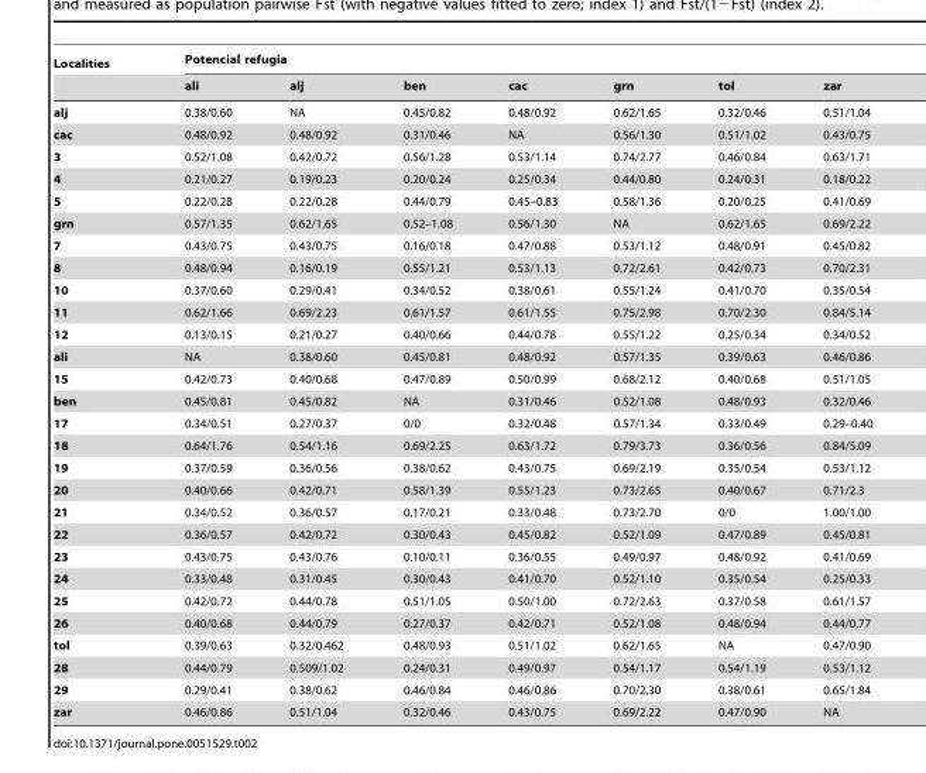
<table><thead><tr><td rowspan="2">Localities</td><td colspan="7">Potencial refugia</td></tr><tr><td>ali</td><td>alj</td><td>ben</td><td>cac</td><td>grn</td><td>tol</td><td>zar</td></tr></thead><tbody><tr><td>alj</td><td>0.38/0.60</td><td>NA</td><td>0.45/0.82</td><td>0.48/0.92</td><td>0.62/1.65</td><td>0.32/0.46</td><td>0.51/1.04</td></tr><tr><td>cac</td><td>0.48/0.92</td><td>0.48/0.92</td><td>0.31/0.46</td><td>NA</td><td>0.56/1.30</td><td>0.51/1.02</td><td>0.43/0.75</td></tr><tr><td>3</td><td>0.52/1.08</td><td>0.42/0.72</td><td>0.56/1.28</td><td>0.53/1.14</td><td>0.74/2.77</td><td>0.46/0.84</td><td>0.63/1.71</td></tr><tr><td>4</td><td>0.21/0.27</td><td>0.19/0.23</td><td>0.20/0.24</td><td>0.25/0.34</td><td>0.44/0.80</td><td>0.24/0.31</td><td>0.18/0.22</td></tr><tr><td>5</td><td>0.22/0.28</td><td>0.22/0.28</td><td>0.44/0.79</td><td>0.45–0.83</td><td>0.58/1.36</td><td>0.20/0.25</td><td>0.41/0.69</td></tr><tr><td>grn</td><td>0.57/1.35</td><td>0.62/1.65</td><td>0.52–1.08</td><td>0.56/1.30</td><td>NA</td><td>0.62/1.65</td><td>0.69/2.22</td></tr><tr><td>7</td><td>0.43/0.75</td><td>0.43/0.75</td><td>0.16/0.18</td><td>0.47/0.88</td><td>0.53/1.12</td><td>0.48/0.91</td><td>0.45/0.82</td></tr><tr><td>8</td><td>0.48/0.94</td><td>0.16/0.19</td><td>0.55/1.21</td><td>0.53/1.13</td><td>0.72/2.61</td><td>0.42/0.73</td><td>0.70/2.31</td></tr><tr><td>10</td><td>0.37/0.60</td><td>0.29/0.41</td><td>0.34/0.52</td><td>0.38/0.61</td><td>0.55/1.24</td><td>0.41/0.70</td><td>0.35/0.54</td></tr><tr><td>11</td><td>0.62/1.66</td><td>0.69/2.23</td><td>0.61/1.57</td><td>0.61/1.55</td><td>0.75/2.98</td><td>0.70/2.30</td><td>0.84/5.14</td></tr><tr><td>12</td><td>0.13/0.15</td><td>0.21/0.27</td><td>0.40/0.66</td><td>0.44/0.78</td><td>0.55/1.22</td><td>0.25/0.34</td><td>0.34/0.52</td></tr><tr><td>ali</td><td>NA</td><td>0.38/0.60</td><td>0.45/0.81</td><td>0.48/0.92</td><td>0.57/1.35</td><td>0.39/0.63</td><td>0.46/0.86</td></tr><tr><td>15</td><td>0.42/0.73</td><td>0.40/0.68</td><td>0.47/0.89</td><td>0.50/0.99</td><td>0.68/2.12</td><td>0.40/0.68</td><td>0.51/1.05</td></tr><tr><td>ben</td><td>0.45/0.81</td><td>0.45/0.82</td><td>NA</td><td>0.31/0.46</td><td>0.52/1.08</td><td>0.48/0.93</td><td>0.32/0.46</td></tr><tr><td>17</td><td>0.34/0.51</td><td>0.27/0.37</td><td>0/0</td><td>0.32/0.48</td><td>0.57/1.34</td><td>0.33/0.49</td><td>0.29–0.40</td></tr><tr><td>18</td><td>0.64/1.76</td><td>0.54/1.16</td><td>0.69/2.25</td><td>0.63/1.72</td><td>0.79/3.73</td><td>0.36/0.56</td><td>0.84/5.09</td></tr><tr><td>19</td><td>0.37/0.59</td><td>0.36/0.56</td><td>0.38/0.62</td><td>0.43/0.75</td><td>0.69/2.19</td><td>0.35/0.54</td><td>0.53/1.12</td></tr><tr><td>20</td><td>0.40/0.66</td><td>0.42/0.71</td><td>0.58/1.39</td><td>0.55/1.23</td><td>0.73/2.65</td><td>0.40/0.67</td><td>0.71/2.3</td></tr><tr><td>21</td><td>0.34/0.52</td><td>0.36/0.57</td><td>0.17/0.21</td><td>0.33/0.48</td><td>0.73/2.70</td><td>0/0</td><td>1.00/1.00</td></tr><tr><td>22</td><td>0.36/0.57</td><td>0.42/0.72</td><td>0.30/0.43</td><td>0.45/0.82</td><td>0.52/1.09</td><td>0.47/0.89</td><td>0.45/0.81</td></tr><tr><td>23</td><td>0.43/0.75</td><td>0.43/0.76</td><td>0.10/0.11</td><td>0.36/0.55</td><td>0.49/0.97</td><td>0.48/0.92</td><td>0.41/0.69</td></tr><tr><td>24</td><td>0.33/0.48</td><td>0.31/0.45</td><td>0.30/0.43</td><td>0.41/0.70</td><td>0.52/1.10</td><td>0.35/0.54</td><td>0.25/0.33</td></tr><tr><td>25</td><td>0.42/0.72</td><td>0.44/0.78</td><td>0.51/1.05</td><td>0.50/1.00</td><td>0.72/2.63</td><td>0.37/0.58</td><td>0.61/1.57</td></tr><tr><td>26</td><td>0.40/0.68</td><td>0.44/0.79</td><td>0.27/0.37</td><td>0.42/0.71</td><td>0.52/1.08</td><td>0.48/0.94</td><td>0.44/0.77</td></tr><tr><td>tol</td><td>0.39/0.63</td><td>0.32/0.462</td><td>0.48/0.93</td><td>0.51/1.02</td><td>0.62/1.65</td><td>NA</td><td>0.47/0.90</td></tr><tr><td>28</td><td>0.44/0.79</td><td>0.509/1.02</td><td>0.24/0.31</td><td>0.49/0.97</td><td>0.54/1.17</td><td>0.54/1.19</td><td>0.53/1.12</td></tr><tr><td>29</td><td>0.29/0.41</td><td>0.38/0.62</td><td>0.46/0.84</td><td>0.46/0.86</td><td>0.70/2.30</td><td>0.38/0.61</td><td>0.65/1.84</td></tr><tr><td>zar</td><td>0.46/0.86</td><td>0.51/1.04</td><td>0.32/0.46</td><td>0.43/0.75</td><td>0.69/2.22</td><td>0.47/0.90</td><td>NA</td></tr></tbody></table>